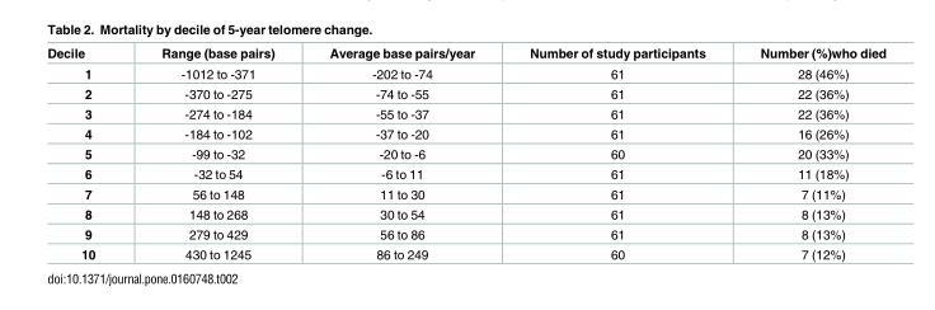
<table><thead><tr><td>Decile</td><td>Range (base pairs)</td><td>Average base pairs/year</td><td>Number of study participants</td><td>Number (%)who died</td></tr></thead><tbody><tr><td>1</td><td>-1012 to -371</td><td>-202 to -74</td><td>61</td><td>28 (46%)</td></tr><tr><td>2</td><td>-370 to -275</td><td>-74 to -55</td><td>61</td><td>22 (36%)</td></tr><tr><td>3</td><td>-274 to -184</td><td>-55 to -37</td><td>61</td><td>22 (36%)</td></tr><tr><td>4</td><td>-184 to -102</td><td>-37 to -20</td><td>61</td><td>16 (26%)</td></tr><tr><td>5</td><td>-99 to -32</td><td>-20 to -6</td><td>60</td><td>20 (33%)</td></tr><tr><td>6</td><td>-32 to 54</td><td>-6 to 11</td><td>61</td><td>11 (18%)</td></tr><tr><td>7</td><td>56 to 148</td><td>11 to 30</td><td>61</td><td>7 (11%)</td></tr><tr><td>8</td><td>148 to 268</td><td>30 to 54</td><td>61</td><td>8 (13%)</td></tr><tr><td>9</td><td>279 to 429</td><td>56 to 86</td><td>61</td><td>8 (13%)</td></tr><tr><td>10</td><td>430 to 1245</td><td>86 to 249</td><td>60</td><td>7 (12%)</td></tr></tbody></table>